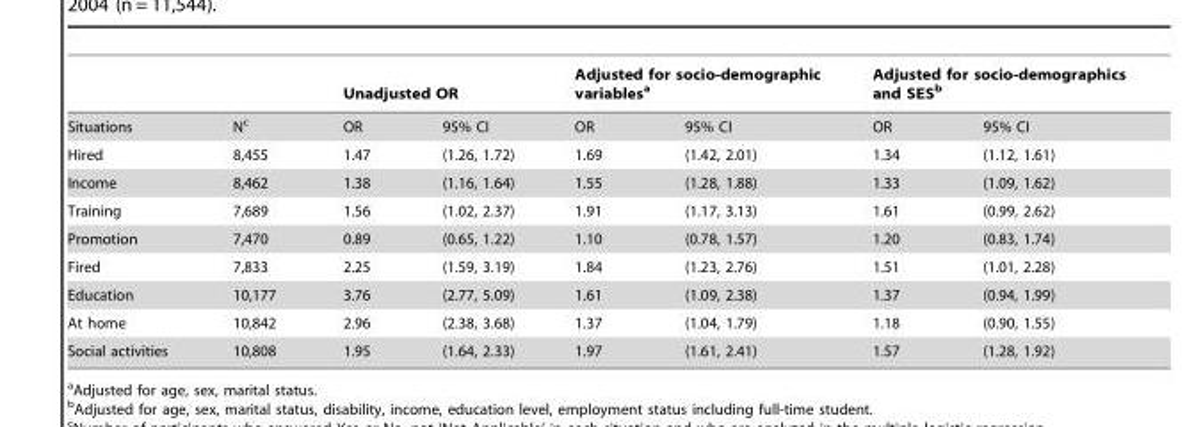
<table><thead><tr><td rowspan="2">Situations</td><td rowspan="2">N<sup>c</sup></td><td colspan="2">Unadjusted OR</td><td colspan="2">Adjusted for socio-demographic variables<sup>a</sup></td><td colspan="2">Adjusted for socio-demographics and SES<sup>b</sup></td></tr><tr><td>OR</td><td>95% CI</td><td>OR</td><td>95% CI</td><td>OR</td><td>95% CI</td></tr></thead><tbody><tr><td>Hired</td><td>8,455</td><td>1.47</td><td>(1.26, 1.72)</td><td>1.69</td><td>(1.42, 2.01)</td><td>1.34</td><td>(1.12, 1.61)</td></tr><tr><td>Income</td><td>8,462</td><td>1.38</td><td>(1.16, 1.64)</td><td>1.55</td><td>(1.28, 1.88)</td><td>1.33</td><td>(1.09, 1.62)</td></tr><tr><td>Training</td><td>7,689</td><td>1.56</td><td>(1.02, 2.37)</td><td>1.91</td><td>(1.17, 3.13)</td><td>1.61</td><td>(0.99, 2.62)</td></tr><tr><td>Promotion</td><td>7,470</td><td>0.89</td><td>(0.65, 1.22)</td><td>1.10</td><td>(0.78, 1.57)</td><td>1.20</td><td>(0.83, 1.74)</td></tr><tr><td>Fired</td><td>7,833</td><td>2.25</td><td>(1.59, 3.19)</td><td>1.84</td><td>(1.23, 2.76)</td><td>1.51</td><td>(1.01, 2.28)</td></tr><tr><td>Education</td><td>10,177</td><td>3.76</td><td>(2.77, 5.09)</td><td>1.61</td><td>(1.09, 2.38)</td><td>1.37</td><td>(0.94, 1.99)</td></tr><tr><td>At home</td><td>10,842</td><td>2.96</td><td>(2.38, 3.68)</td><td>1.37</td><td>(1.04, 1.79)</td><td>1.18</td><td>(0.90, 1.55)</td></tr><tr><td>Social activities</td><td>10,808</td><td>1.95</td><td>(1.64, 2.33)</td><td>1.97</td><td>(1.61, 2.41)</td><td>1.57</td><td>(1.28, 1.92)</td></tr></tbody></table>